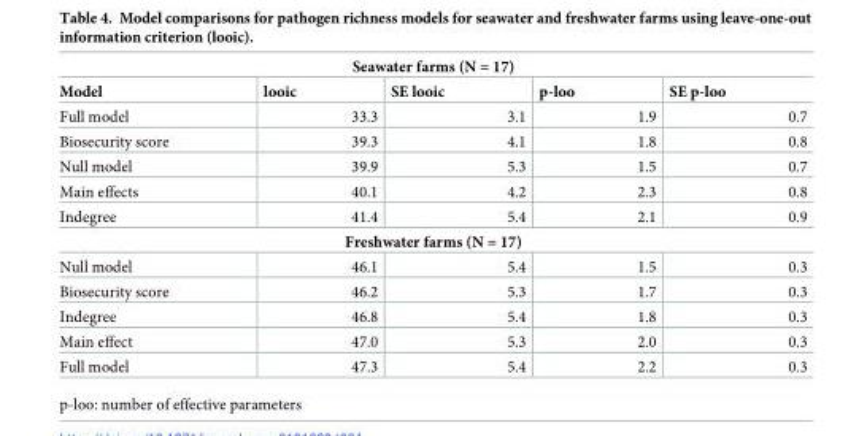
<table><tbody><tr><td colspan="5">Seawater farms (N = 17)</td></tr><tr><td>Model</td><td>looic</td><td>SE looic</td><td>p-loo</td><td>SE p-loo</td></tr><tr><td>Full model</td><td>33.3</td><td>3.1</td><td>1.9</td><td>0.7</td></tr><tr><td>Biosecurity score</td><td>39.3</td><td>4.1</td><td>1.8</td><td>0.8</td></tr><tr><td>Null model</td><td>39.9</td><td>5.3</td><td>1.5</td><td>0.7</td></tr><tr><td>Main effects</td><td>40.1</td><td>4.2</td><td>2.3</td><td>0.8</td></tr><tr><td>Indegree</td><td>41.4</td><td>5.4</td><td>2.1</td><td>0.9</td></tr><tr><td colspan="5">Freshwater farms (N = 17)</td></tr><tr><td>Null model</td><td>46.1</td><td>5.4</td><td>1.5</td><td>0.3</td></tr><tr><td>Biosecurity score</td><td>46.2</td><td>5.3</td><td>1.7</td><td>0.3</td></tr><tr><td>Indegree</td><td>46.8</td><td>5.4</td><td>1.8</td><td>0.3</td></tr><tr><td>Main effect</td><td>47.0</td><td>5.3</td><td>2.0</td><td>0.3</td></tr><tr><td>Full model</td><td>47.3</td><td>5.4</td><td>2.2</td><td>0.3</td></tr></tbody></table>